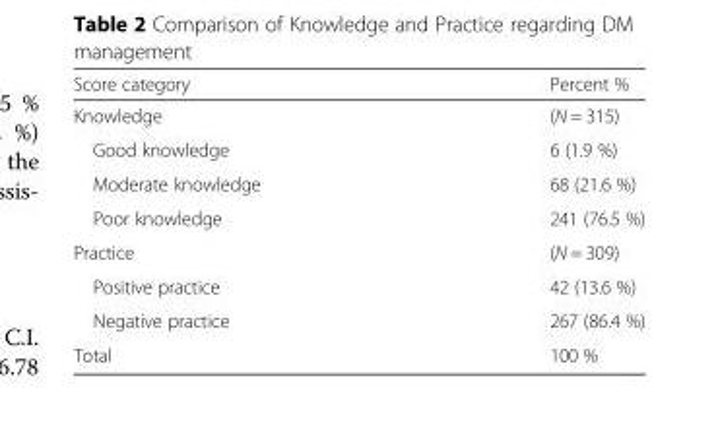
<table><thead><tr><td>Score category</td><td>Percent %</td></tr></thead><tbody><tr><td>Knowledge</td><td>(N = 315)</td></tr><tr><td>Good knowledge</td><td>6 (1.9 %)</td></tr><tr><td>Moderate knowledge</td><td>68 (21.6 %)</td></tr><tr><td>Poor knowledge</td><td>241 (76.5 %)</td></tr><tr><td>Practice</td><td>(N = 309)</td></tr><tr><td>Positive practice</td><td>42 (13.6 %)</td></tr><tr><td>Negative practice</td><td>267 (86.4 %)</td></tr><tr><td>Total</td><td>100 %</td></tr></tbody></table>